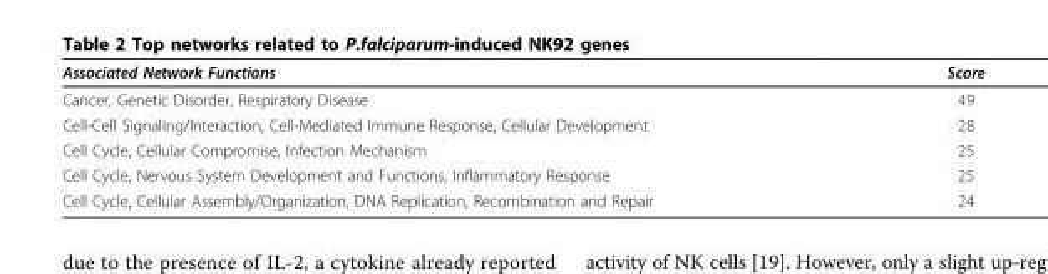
<table><thead><tr><td>Associated Network Functions</td><td>Score</td></tr></thead><tbody><tr><td>Cancer, Genetic Disorder, Respiratory Disease</td><td>49</td></tr><tr><td>Cell-Cell Signaling/Interaction, Cell-Mediated Immune Response, Cellular Development</td><td>28</td></tr><tr><td>Cell Cycle, Cellular Compromise, Infection Mechanism</td><td>25</td></tr><tr><td>Cell Cycle, Nervous System Development and Functions, Inflammatory Response</td><td>25</td></tr><tr><td>Cell Cycle, Cellular Assembly/Organization, DNA Replication, Recombination and Repair</td><td>24</td></tr></tbody></table>